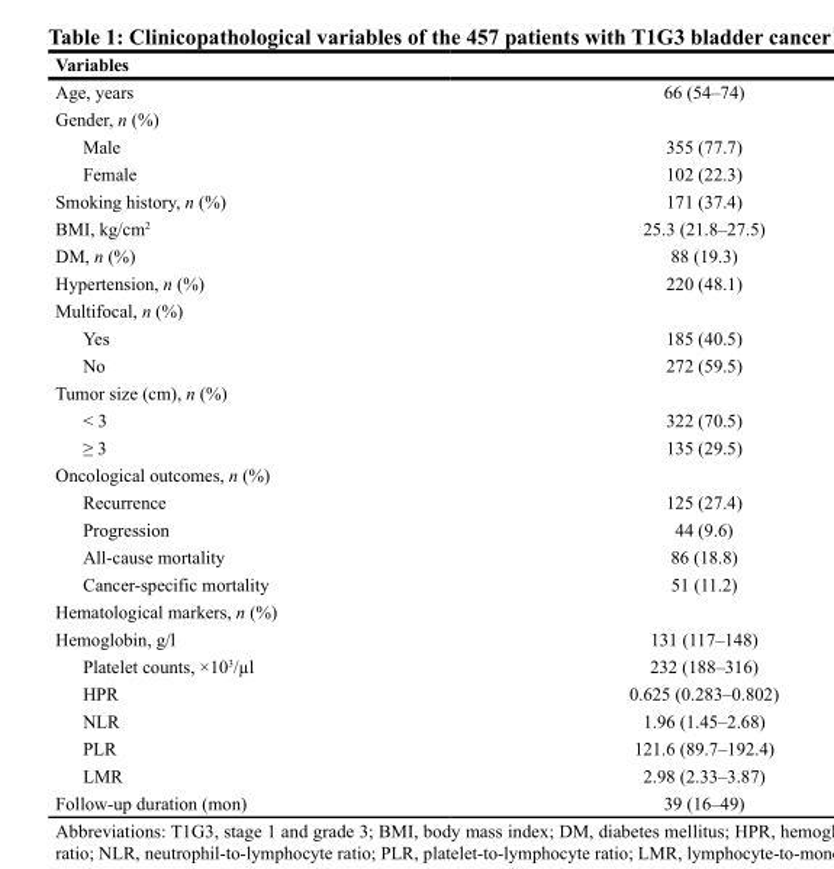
<table><thead><tr><td>Variables</td><td></td></tr></thead><tbody><tr><td>Age, years</td><td>66 (54–74)</td></tr><tr><td colspan="2">Gender, n (%)</td></tr><tr><td>Male</td><td>355 (77.7)</td></tr><tr><td>Female</td><td>102 (22.3)</td></tr><tr><td>Smoking history, n (%)</td><td>171 (37.4)</td></tr><tr><td>BMI, kg/cm<sup>2</sup></td><td>25.3 (21.8–27.5)</td></tr><tr><td>DM, n (%)</td><td>88 (19.3)</td></tr><tr><td>Hypertension, n (%)</td><td>220 (48.1)</td></tr><tr><td colspan="2">Multifocal, n (%)</td></tr><tr><td>Yes</td><td>185 (40.5)</td></tr><tr><td>No</td><td>272 (59.5)</td></tr><tr><td colspan="2">Tumor size (cm), n (%)</td></tr><tr><td>&lt; 3</td><td>322 (70.5)</td></tr><tr><td>≥ 3</td><td>135 (29.5)</td></tr><tr><td colspan="2">Oncological outcomes, n (%)</td></tr><tr><td>Recurrence</td><td>125 (27.4)</td></tr><tr><td>Progression</td><td>44 (9.6)</td></tr><tr><td>All-cause mortality</td><td>86 (18.8)</td></tr><tr><td>Cancer-specific mortality</td><td>51 (11.2)</td></tr><tr><td colspan="2">Hematological markers, n (%)</td></tr><tr><td>Hemoglobin, g/l</td><td>131 (117–148)</td></tr><tr><td>Platelet counts, ×10<sup>3</sup>/µl</td><td>232 (188–316)</td></tr><tr><td>HPR</td><td>0.625 (0.283–0.802)</td></tr><tr><td>NLR</td><td>1.96 (1.45–2.68)</td></tr><tr><td>PLR</td><td>121.6 (89.7–192.4)</td></tr><tr><td>LMR</td><td>2.98 (2.33–3.87)</td></tr><tr><td>Follow-up duration (mon)</td><td>39 (16–49)</td></tr></tbody></table>